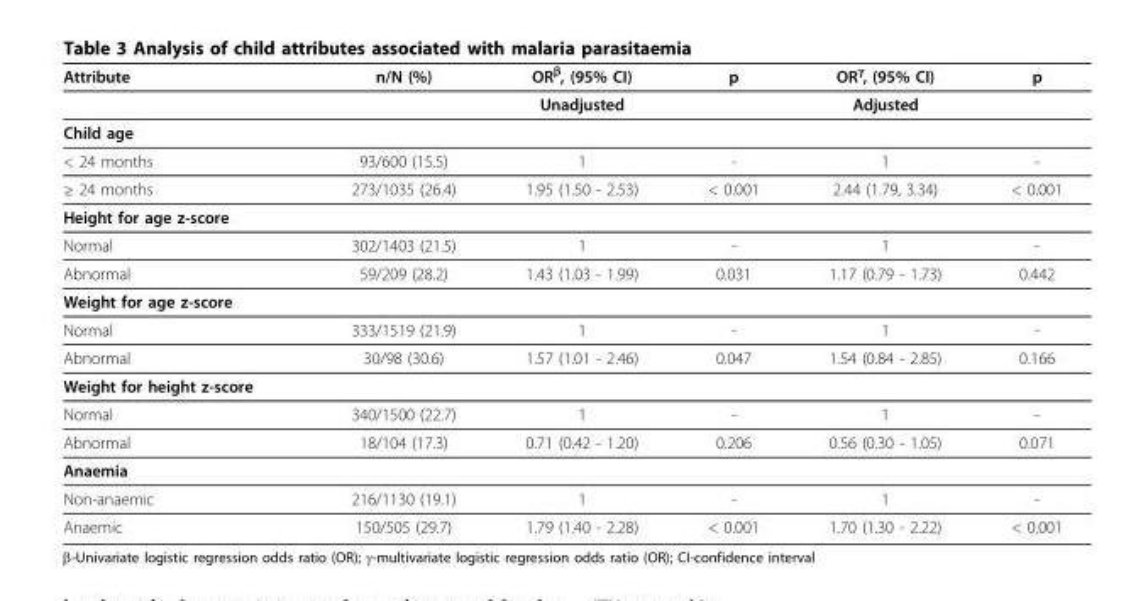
<table><thead><tr><td>Attribute</td><td>n/N (%)</td><td>ORβ, (95% CI)</td><td>p</td><td>ORγ, (95% CI)</td><td>p</td></tr></thead><tbody><tr><td></td><td></td><td>Unadjusted</td><td></td><td>Adjusted</td><td></td></tr><tr><td colspan="6">Child age</td></tr><tr><td>&lt; 24 months</td><td>93/600 (15.5)</td><td>1</td><td>-</td><td>1</td><td>-</td></tr><tr><td>≥ 24 months</td><td>273/1035 (26.4)</td><td>1.95 (1.50 - 2.53)</td><td>&lt; 0.001</td><td>2.44 (1.79, 3.34)</td><td>&lt; 0.001</td></tr><tr><td colspan="6">Height for age z-score</td></tr><tr><td>Normal</td><td>302/1403 (21.5)</td><td>1</td><td>-</td><td>1</td><td>-</td></tr><tr><td>Abnormal</td><td>59/209 (28.2)</td><td>1.43 (1.03 - 1.99)</td><td>0.031</td><td>1.17 (0.79 - 1.73)</td><td>0.442</td></tr><tr><td colspan="6">Weight for age z-score</td></tr><tr><td>Normal</td><td>333/1519 (21.9)</td><td>1</td><td>-</td><td>1</td><td>-</td></tr><tr><td>Abnormal</td><td>30/98 (30.6)</td><td>1.57 (1.01 - 2.46)</td><td>0.047</td><td>1.54 (0.84 - 2.85)</td><td>0.166</td></tr><tr><td colspan="6">Weight for height z-score</td></tr><tr><td>Normal</td><td>340/1500 (22.7)</td><td>1</td><td>-</td><td>1</td><td>-</td></tr><tr><td>Abnormal</td><td>18/104 (17.3)</td><td>0.71 (0.42 - 1.20)</td><td>0.206</td><td>0.56 (0.30 - 1.05)</td><td>0.071</td></tr><tr><td colspan="6">Anaemia</td></tr><tr><td>Non-anaemic</td><td>216/1130 (19.1)</td><td>1</td><td>-</td><td>1</td><td>-</td></tr><tr><td>Anaemic</td><td>150/505 (29.7)</td><td>1.79 (1.40 - 2.28)</td><td>&lt; 0.001</td><td>1.70 (1.30 - 2.22)</td><td>&lt; 0.001</td></tr></tbody></table>